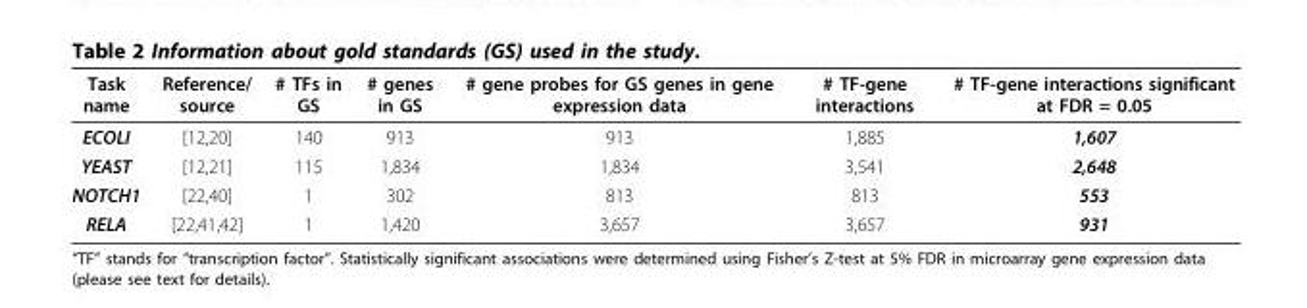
<table><thead><tr><td>Task name</td><td>Reference/ source</td><td># TFs in GS</td><td># genes in GS</td><td># gene probes for GS genes in gene expression data</td><td># TF-gene interactions</td><td># TF-gene interactions significant at FDR = 0.05</td></tr></thead><tbody><tr><td>ECOLI</td><td>[12,20]</td><td>140</td><td>913</td><td>913</td><td>1,885</td><td>1,607</td></tr><tr><td>YEAST</td><td>[12,21]</td><td>115</td><td>1,834</td><td>1,834</td><td>3,541</td><td>2,648</td></tr><tr><td>NOTCH1</td><td>[22,40]</td><td>1</td><td>302</td><td>813</td><td>813</td><td>553</td></tr><tr><td>RELA</td><td>[22,41,42]</td><td>1</td><td>1,420</td><td>3,657</td><td>3,657</td><td>931</td></tr></tbody></table>